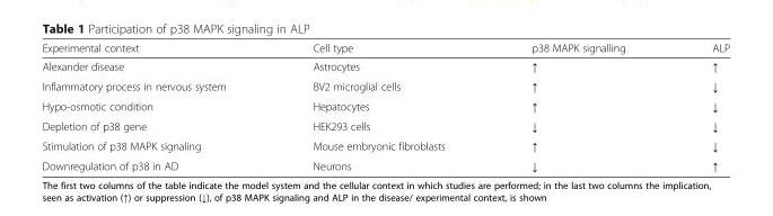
<table><thead><tr><td>Experimental context</td><td>Cell type</td><td>p38 MAPK signalling</td><td>ALP</td></tr></thead><tbody><tr><td>Alexander disease</td><td>Astrocytes</td><td>↑</td><td>↑</td></tr><tr><td>Inflammatory process in nervous system</td><td>BV2 microglial cells</td><td>↑</td><td>↓</td></tr><tr><td>Hypo-osmotic condition</td><td>Hepatocytes</td><td>↑</td><td>↓</td></tr><tr><td>Depletion of p38 gene</td><td>HEK293 cells</td><td>↓</td><td>↓</td></tr><tr><td>Stimulation of p38 MAPK signaling</td><td>Mouse embryonic fibroblasts</td><td>↑</td><td>↓</td></tr><tr><td>Downregulation of p38 in AD</td><td>Neurons</td><td>↓</td><td>↑</td></tr></tbody></table>